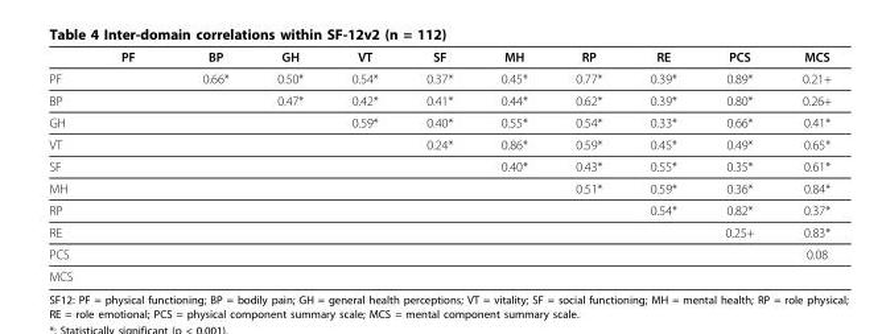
<table><thead><tr><td></td><td>PF</td><td>BP</td><td>GH</td><td>VT</td><td>SF</td><td>MH</td><td>RP</td><td>RE</td><td>PCS</td><td>MCS</td></tr></thead><tbody><tr><td>PF</td><td></td><td>0.66*</td><td>0.50*</td><td>0.54*</td><td>0.37*</td><td>0.45*</td><td>0.77*</td><td>0.39*</td><td>0.89*</td><td>0.21+</td></tr><tr><td>BP</td><td></td><td></td><td>0.47*</td><td>0.42*</td><td>0.41*</td><td>0.44*</td><td>0.62*</td><td>0.39*</td><td>0.80*</td><td>0.26+</td></tr><tr><td>GH</td><td></td><td></td><td></td><td>0.59*</td><td>0.40*</td><td>0.55*</td><td>0.54*</td><td>0.33*</td><td>0.66*</td><td>0.41*</td></tr><tr><td>VT</td><td></td><td></td><td></td><td></td><td>0.24*</td><td>0.86*</td><td>0.59*</td><td>0.45*</td><td>0.49*</td><td>0.65*</td></tr><tr><td>SF</td><td></td><td></td><td></td><td></td><td></td><td>0.40*</td><td>0.43*</td><td>0.55*</td><td>0.35*</td><td>0.61*</td></tr><tr><td>MH</td><td></td><td></td><td></td><td></td><td></td><td></td><td>0.51*</td><td>0.59*</td><td>0.36*</td><td>0.84*</td></tr><tr><td>RP</td><td></td><td></td><td></td><td></td><td></td><td></td><td></td><td>0.54*</td><td>0.82*</td><td>0.37*</td></tr><tr><td>RE</td><td></td><td></td><td></td><td></td><td></td><td></td><td></td><td></td><td>0.25+</td><td>0.83*</td></tr><tr><td>PCS</td><td></td><td></td><td></td><td></td><td></td><td></td><td></td><td></td><td></td><td>0.08</td></tr><tr><td>MCS</td><td></td><td></td><td></td><td></td><td></td><td></td><td></td><td></td><td></td><td></td></tr></tbody></table>